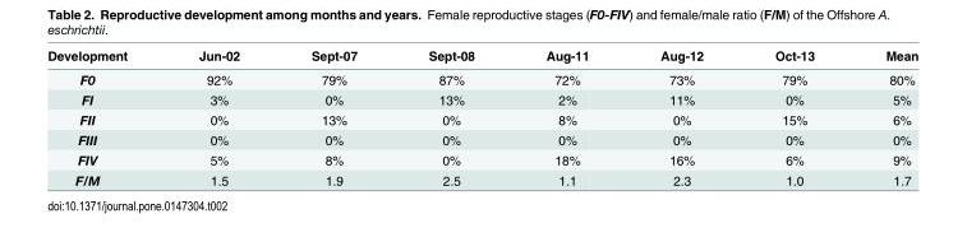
<table><thead><tr><td>Development</td><td>Jun-02</td><td>Sept-07</td><td>Sept-08</td><td>Aug-11</td><td>Aug-12</td><td>Oct-13</td><td>Mean</td></tr></thead><tbody><tr><td>F0</td><td>92%</td><td>79%</td><td>87%</td><td>72%</td><td>73%</td><td>79%</td><td>80%</td></tr><tr><td>FI</td><td>3%</td><td>0%</td><td>13%</td><td>2%</td><td>11%</td><td>0%</td><td>5%</td></tr><tr><td>FII</td><td>0%</td><td>13%</td><td>0%</td><td>8%</td><td>0%</td><td>15%</td><td>6%</td></tr><tr><td>FIII</td><td>0%</td><td>0%</td><td>0%</td><td>0%</td><td>0%</td><td>0%</td><td>0%</td></tr><tr><td>FIV</td><td>5%</td><td>8%</td><td>0%</td><td>18%</td><td>16%</td><td>6%</td><td>9%</td></tr><tr><td>F/M</td><td>1.5</td><td>1.9</td><td>2.5</td><td>1.1</td><td>2.3</td><td>1.0</td><td>1.7</td></tr></tbody></table>